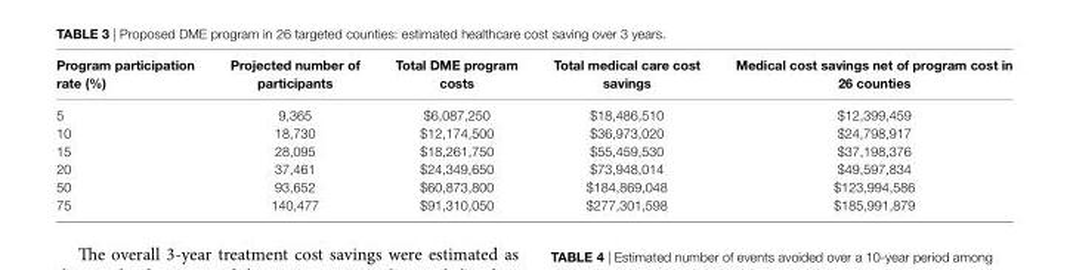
<table><thead><tr><td>Program participation rate (%)</td><td>Projected number of participants</td><td>total dme program costs</td><td>total medical care cost savings</td><td>medical cost savings net of program cost in 26 counties</td></tr></thead><tbody><tr><td>5</td><td>9,365</td><td>$6,087,250</td><td>$18,486,510</td><td>$12,399,459</td></tr><tr><td>10</td><td>18,730</td><td>$12,174,500</td><td>$36,973,020</td><td>$24,798,917</td></tr><tr><td>15</td><td>28,095</td><td>$18,261,750</td><td>$55,459,530</td><td>$37,198,376</td></tr><tr><td>20</td><td>37,461</td><td>$24,349,650</td><td>$73,948,014</td><td>$49,597,834</td></tr><tr><td>50</td><td>93,652</td><td>$60,873,800</td><td>$184,869,048</td><td>$123,994,586</td></tr><tr><td>75</td><td>140,477</td><td>$91,310,050</td><td>$277,301,598</td><td>$185,991,879</td></tr></tbody></table>